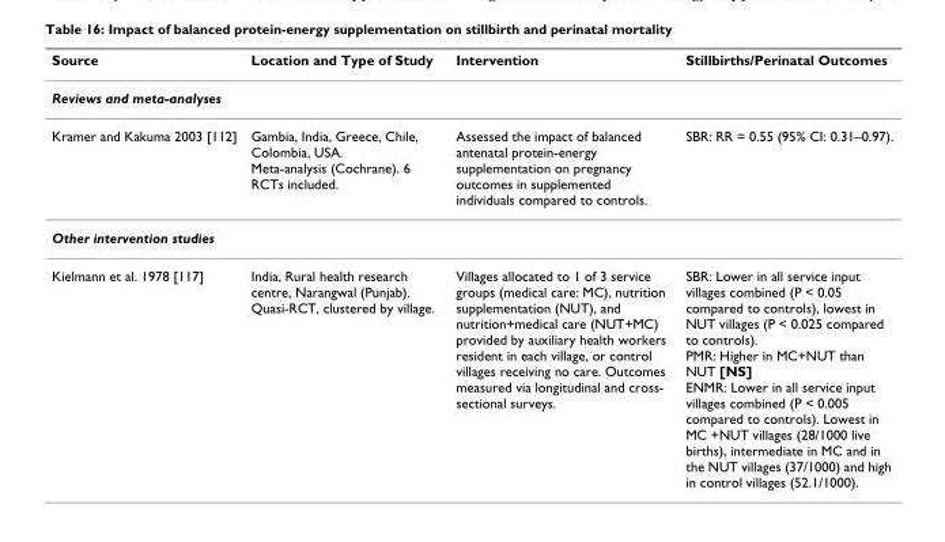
<table><thead><tr><td>Source</td><td>Location and Type of Study</td><td>Intervention</td><td>Stillbirths/Perinatal Outcomes</td></tr></thead><tbody><tr><td colspan="4">Reviews and meta-analyses</td></tr><tr><td>Kramer and Kakuma 2003 [112]</td><td>Gambia, India, Greece, Chile, Colombia, USA. Meta-analysis (Cochrane). 6 RCTs included.</td><td>Assessed the impact of balanced antenatal protein-energy supplementation on pregnancy outcomes in supplemented individuals compared to controls.</td><td>SBR: RR = 0.55 (95% CI: 0.31–0.97).</td></tr><tr><td colspan="4">Other intervention studies</td></tr><tr><td>Kielmann et al. 1978 [117]</td><td>India, Rural health research centre, Narangwal (Punjab). Quasi-RCT, clustered by village.</td><td>Villages allocated to 1 of 3 service groups (medical care: MC), nutrition supplementation (NUT), and nutrition+medical care (NUT+MC) provided by auxiliary health workers resident in each village, or control villages receiving no care. Outcomes measured via longitudinal and cross- sectional surveys.</td><td>SBR: Lower in all service input villages combined (P &lt; 0.05 compared to controls), lowest in NUT villages (P &lt; 0.025 compared to controls). PMR: Higher in MC+NUT than NUT [NS] ENMR: Lower in all service input villages combined (P &lt; 0.005 compared to controls). Lowest in MC +NUT villages (28/1000 live births), intermediate in MC and in the NUT villages (37/1000) and high in control villages (52.1/1000).</td></tr></tbody></table>